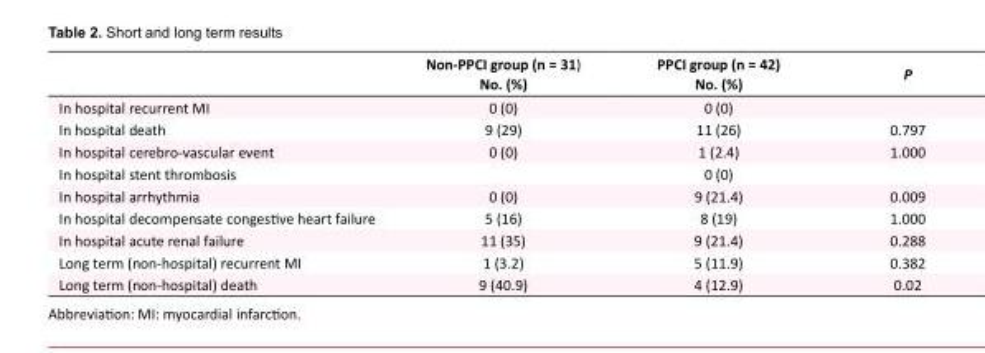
<table><thead><tr><td></td><td>Non-PPCI group (n = 31) No. (%)</td><td>PPCI group (n = 42) No. (%)</td><td>P</td></tr></thead><tbody><tr><td>In hospital recurrent MI</td><td>0 (0)</td><td>0 (0)</td><td></td></tr><tr><td>In hospital death</td><td>9 (29)</td><td>11 (26)</td><td>0.797</td></tr><tr><td>In hospital cerebro-vascular event</td><td>0 (0)</td><td>1 (2.4)</td><td>1.000</td></tr><tr><td>In hospital stent thrombosis</td><td></td><td>0 (0)</td><td></td></tr><tr><td>In hospital arrhythmia</td><td>0 (0)</td><td>9 (21.4)</td><td>0.009</td></tr><tr><td>In hospital decompensate congestive heart failure</td><td>5 (16)</td><td>8 (19)</td><td>1.000</td></tr><tr><td>In hospital acute renal failure</td><td>11 (35)</td><td>9 (21.4)</td><td>0.288</td></tr><tr><td>Long term (non-hospital) recurrent MI</td><td>1 (3.2)</td><td>5 (11.9)</td><td>0.382</td></tr><tr><td>Long term (non-hospital) death</td><td>9 (40.9)</td><td>4 (12.9)</td><td>0.02</td></tr></tbody></table>